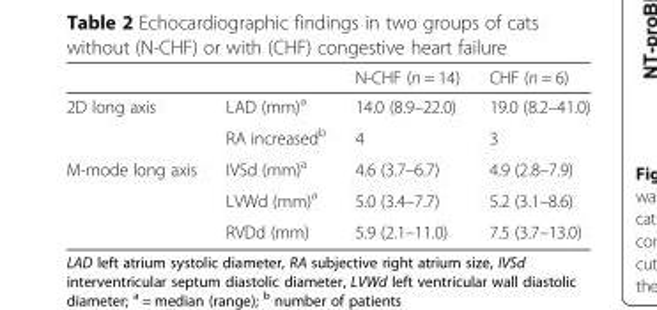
<table><thead><tr><td></td><td></td><td>N-CHF (n = 14)</td><td>CHF (n = 6)</td></tr></thead><tbody><tr><td rowspan="2">2D long axis</td><td>LAD (mm)<sup>a</sup></td><td>14.0 (8.9–22.0)</td><td>19.0 (8.2–41.0)</td></tr><tr><td>RA increased<sup>b</sup></td><td>4</td><td>3</td></tr><tr><td rowspan="3">M-mode long axis</td><td>IVSd (mm)<sup>a</sup></td><td>4.6 (3.7–6.7)</td><td>4.9 (2.8–7.9)</td></tr><tr><td>LVWd (mm)<sup>a</sup></td><td>5.0 (3.4–7.7)</td><td>5.2 (3.1–8.6)</td></tr><tr><td>RVDd (mm)</td><td>5.9 (2.1–11.0)</td><td>7.5 (3.7–13.0)</td></tr></tbody></table>